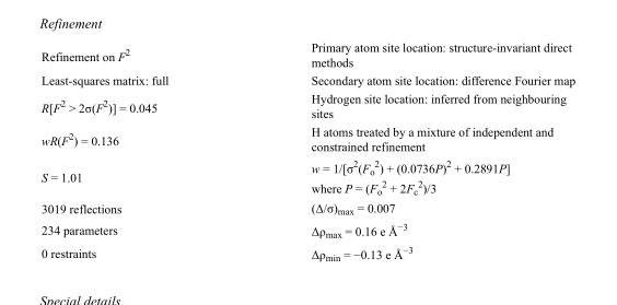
<table><tbody><tr><td>Refinement on F<sup>2</sup></td><td>Primary atom site location: structure-invariant direct methods</td></tr><tr><td>Least-squares matrix: full</td><td>Secondary atom site location: difference Fourier map</td></tr><tr><td>R[F<sup>2</sup> &gt; 2σ(F<sup>2</sup>)] = 0.045</td><td>Hydrogen site location: inferred from neighbouring sites</td></tr><tr><td>wR(F<sup>2</sup>) = 0.136</td><td>H atoms treated by a mixture of independent and constrained refinement</td></tr><tr><td>S = 1.01</td><td>w = 1/[σ<sup>2</sup>(F<sub>o</sub> <sup>2</sup>) + (0.0736P)<sup>2</sup> + 0.2891P] where P = (F<sub>o</sub> <sup>2</sup> + 2F<sub>c</sub> <sup>2</sup>)/3</td></tr><tr><td>3019 reflections</td><td>(Δ/σ)<sub>max</sub> = 0.007</td></tr><tr><td>234 parameters</td><td>Δρ<sub>max</sub> = 0.16 e Å<sup>−3</sup></td></tr><tr><td>0 restraints</td><td>Δρ<sub>min</sub> = −0.13 e Å<sup>−3</sup></td></tr></tbody></table>